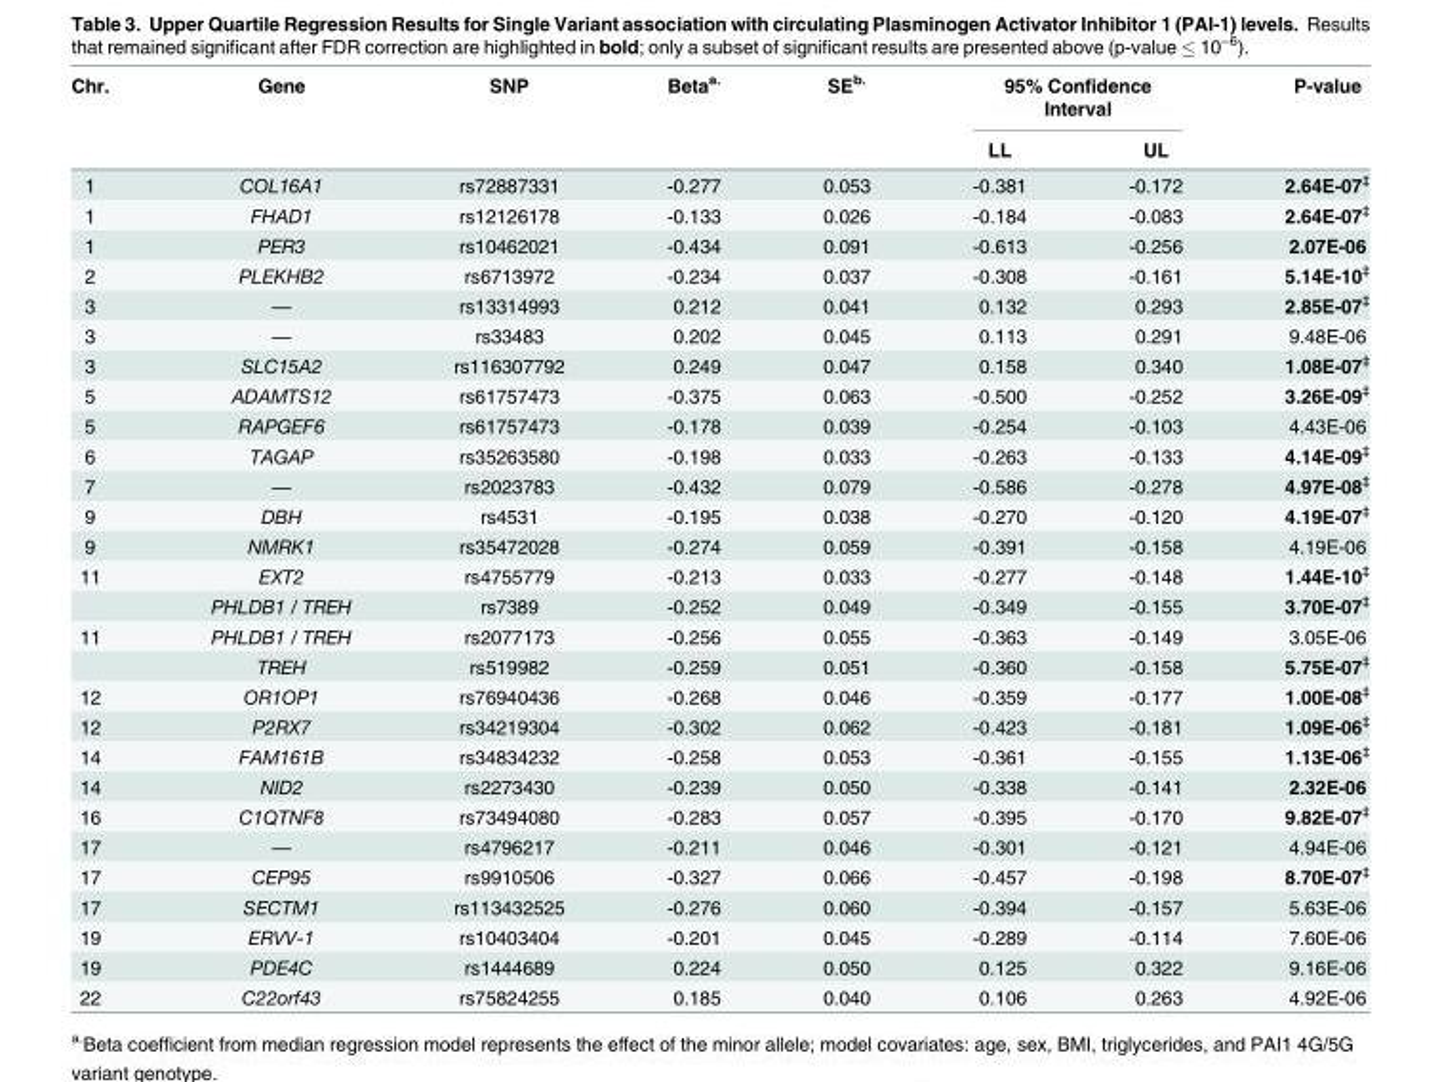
<table><thead><tr><td rowspan="2">Chr.</td><td rowspan="2">Gene</td><td rowspan="2">SNP</td><td rowspan="2">Beta<sup>a.</sup></td><td rowspan="2">SE<sup>b.</sup></td><td colspan="2">95% Confidence Interval</td><td rowspan="2">P-value</td></tr><tr><td>LL</td><td>UL</td></tr></thead><tbody><tr><td>1</td><td>COL16A1</td><td>rs72887331</td><td>-0.277</td><td>0.053</td><td>-0.381</td><td>-0.172</td><td>2.64E-07<sup>‡</sup></td></tr><tr><td>1</td><td>FHAD1</td><td>rs12126178</td><td>-0.133</td><td>0.026</td><td>-0.184</td><td>-0.083</td><td>2.64E-07<sup>‡</sup></td></tr><tr><td>1</td><td>PER3</td><td>rs10462021</td><td>-0.434</td><td>0.091</td><td>-0.613</td><td>-0.256</td><td>2.07E-06</td></tr><tr><td>2</td><td>PLEKHB2</td><td>rs6713972</td><td>-0.234</td><td>0.037</td><td>-0.308</td><td>-0.161</td><td>5.14E-10<sup>‡</sup></td></tr><tr><td>3</td><td>—</td><td>rs13314993</td><td>0.212</td><td>0.041</td><td>0.132</td><td>0.293</td><td>2.85E-07<sup>‡</sup></td></tr><tr><td>3</td><td>—</td><td>rs33483</td><td>0.202</td><td>0.045</td><td>0.113</td><td>0.291</td><td>9.48E-06</td></tr><tr><td>3</td><td>SLC15A2</td><td>rs116307792</td><td>0.249</td><td>0.047</td><td>0.158</td><td>0.340</td><td>1.08E-07<sup>‡</sup></td></tr><tr><td>5</td><td>ADAMTS12</td><td>rs61757473</td><td>-0.375</td><td>0.063</td><td>-0.500</td><td>-0.252</td><td>3.26E-09<sup>‡</sup></td></tr><tr><td>5</td><td>RAPGEF6</td><td>rs61757473</td><td>-0.178</td><td>0.039</td><td>-0.254</td><td>-0.103</td><td>4.43E-06</td></tr><tr><td>6</td><td>TAGAP</td><td>rs35263580</td><td>-0.198</td><td>0.033</td><td>-0.263</td><td>-0.133</td><td>4.14E-09<sup>‡</sup></td></tr><tr><td>7</td><td>—</td><td>rs2023783</td><td>-0.432</td><td>0.079</td><td>-0.586</td><td>-0.278</td><td>4.97E-08<sup>‡</sup></td></tr><tr><td>9</td><td>DBH</td><td>rs4531</td><td>-0.195</td><td>0.038</td><td>-0.270</td><td>-0.120</td><td>4.19E-07<sup>‡</sup></td></tr><tr><td>9</td><td>NMRK1</td><td>rs35472028</td><td>-0.274</td><td>0.059</td><td>-0.391</td><td>-0.158</td><td>4.19E-06</td></tr><tr><td rowspan="2">11</td><td>EXT2</td><td>rs4755779</td><td>-0.213</td><td>0.033</td><td>-0.277</td><td>-0.148</td><td>1.44E-10<sup>‡</sup></td></tr><tr><td>PHLDB1 / TREH</td><td>rs7389</td><td>-0.252</td><td>0.049</td><td>-0.349</td><td>-0.155</td><td>3.70E-07<sup>‡</sup></td></tr><tr><td rowspan="2">11</td><td>PHLDB1 / TREH</td><td>rs2077173</td><td>-0.256</td><td>0.055</td><td>-0.363</td><td>-0.149</td><td>3.05E-06</td></tr><tr><td>TREH</td><td>rs519982</td><td>-0.259</td><td>0.051</td><td>-0.360</td><td>-0.158</td><td>5.75E-07<sup>‡</sup></td></tr><tr><td>12</td><td>OR1OP1</td><td>rs76940436</td><td>-0.268</td><td>0.046</td><td>-0.359</td><td>-0.177</td><td>1.00E-08<sup>‡</sup></td></tr><tr><td>12</td><td>P2RX7</td><td>rs34219304</td><td>-0.302</td><td>0.062</td><td>-0.423</td><td>-0.181</td><td>1.09E-06<sup>‡</sup></td></tr><tr><td>14</td><td>FAM161B</td><td>rs34834232</td><td>-0.258</td><td>0.053</td><td>-0.361</td><td>-0.155</td><td>1.13E-06<sup>‡</sup></td></tr><tr><td>14</td><td>NID2</td><td>rs2273430</td><td>-0.239</td><td>0.050</td><td>-0.338</td><td>-0.141</td><td>2.32E-06</td></tr><tr><td>16</td><td>C1QTNF8</td><td>rs73494080</td><td>-0.283</td><td>0.057</td><td>-0.395</td><td>-0.170</td><td>9.82E-07<sup>‡</sup></td></tr><tr><td>17</td><td>—</td><td>rs4796217</td><td>-0.211</td><td>0.046</td><td>-0.301</td><td>-0.121</td><td>4.94E-06</td></tr><tr><td>17</td><td>CEP95</td><td>rs9910506</td><td>-0.327</td><td>0.066</td><td>-0.457</td><td>-0.198</td><td>8.70E-07<sup>‡</sup></td></tr><tr><td>17</td><td>SECTM1</td><td>rs113432525</td><td>-0.276</td><td>0.060</td><td>-0.394</td><td>-0.157</td><td>5.63E-06</td></tr><tr><td>19</td><td>ERVV-1</td><td>rs10403404</td><td>-0.201</td><td>0.045</td><td>-0.289</td><td>-0.114</td><td>7.60E-06</td></tr><tr><td>19</td><td>PDE4C</td><td>rs1444689</td><td>0.224</td><td>0.050</td><td>0.125</td><td>0.322</td><td>9.16E-06</td></tr><tr><td>22</td><td>C22orf43</td><td>rs75824255</td><td>0.185</td><td>0.040</td><td>0.106</td><td>0.263</td><td>4.92E-06</td></tr></tbody></table>